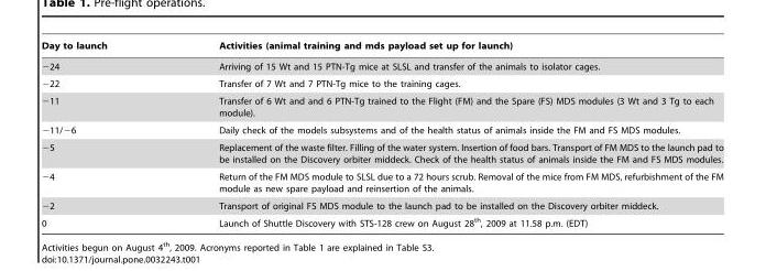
<table><thead><tr><td>Day to launch</td><td>Activities (animal training and mds payload set up for launch)</td></tr></thead><tbody><tr><td>−24</td><td>Arriving of 15 Wt and 15 PTN-Tg mice at SLSL and transfer of the animals to isolator cages.</td></tr><tr><td>−22</td><td>Transfer of 7 Wt and 7 PTN-Tg mice to the training cages.</td></tr><tr><td>−11</td><td>Transfer of 6 Wt and and 6 PTN-Tg trained to the Flight (FM) and the Spare (FS) MDS modules (3 Wt and 3 Tg to each module).</td></tr><tr><td>−11/−6</td><td>Daily check of the models subsystems and of the health status of animals inside the FM and FS MDS modules.</td></tr><tr><td>−5</td><td>Replacement of the waste filter. Filling of the water system. Insertion of food bars. Transport of FM MDS to the launch pad to be installed on the Discovery orbiter middeck. Check of the health status of animals inside the FM and FS MDS modules.</td></tr><tr><td>−4</td><td>Return of the FM MDS module to SLSL due to a 72 hours scrub. Removal of the mice from FM MDS, refurbishment of the FM module as new spare payload and reinsertion of the animals.</td></tr><tr><td>−2</td><td>Transport of original FS MDS module to the launch pad to be installed on the Discovery orbiter middeck.</td></tr><tr><td>0</td><td>Launch of Shuttle Discovery with STS-128 crew on August 28<sup>th</sup>, 2009 at 11.58 p.m. (EDT)</td></tr></tbody></table>